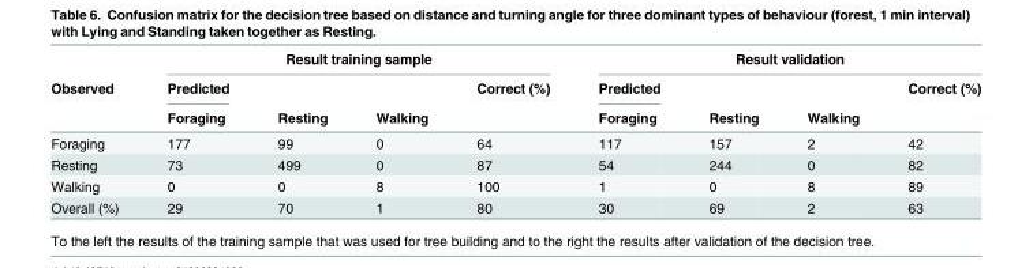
<table><thead><tr><td rowspan="3">Observed</td><td colspan="4">Result training sample</td><td colspan="4">Result validation</td></tr><tr><td rowspan="2">Predicted Foraging</td><td rowspan="2">Resting</td><td rowspan="2">Walking</td><td rowspan="2">Correct (%)</td><td rowspan="2">Predicted Foraging</td><td rowspan="2">Resting</td><td rowspan="2">Walking</td><td rowspan="2">Correct (%)</td></tr><tr></tr></thead><tbody><tr><td>Foraging</td><td>177</td><td>99</td><td>0</td><td>64</td><td>117</td><td>157</td><td>2</td><td>42</td></tr><tr><td>Resting</td><td>73</td><td>499</td><td>0</td><td>87</td><td>54</td><td>244</td><td>0</td><td>82</td></tr><tr><td>Walking</td><td>0</td><td>0</td><td>8</td><td>100</td><td>1</td><td>0</td><td>8</td><td>89</td></tr><tr><td>Overall (%)</td><td>29</td><td>70</td><td>1</td><td>80</td><td>30</td><td>69</td><td>2</td><td>63</td></tr></tbody></table>